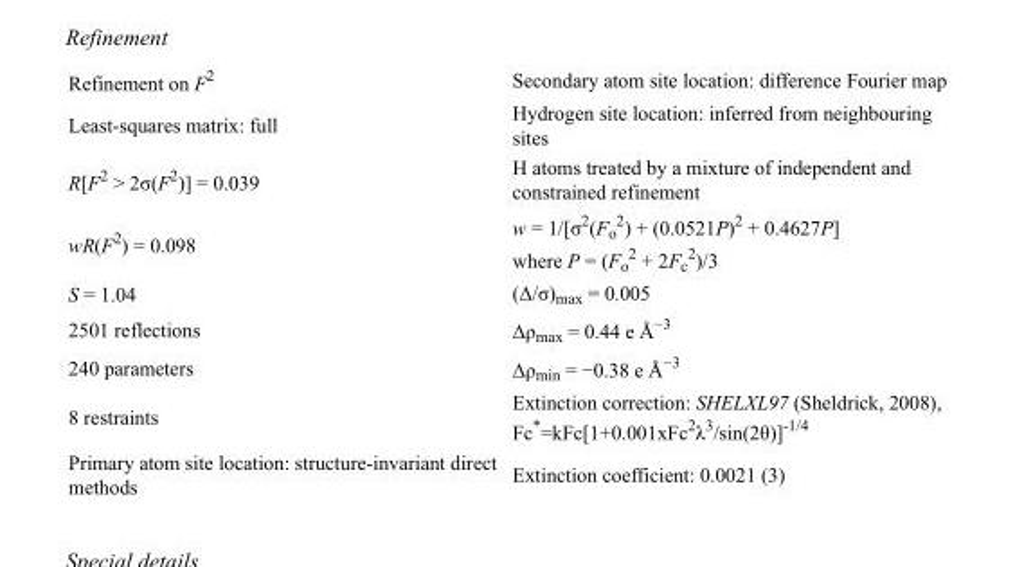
<table><tbody><tr><td>Refinement on F<sup>2</sup></td><td>Secondary atom site location: difference Fourier map</td></tr><tr><td>Least-squares matrix: full</td><td>Hydrogen site location: inferred from neighbouring sites</td></tr><tr><td>R[F<sup>2</sup> &gt; 2σ(F<sup>2</sup>)] = 0.039</td><td>H atoms treated by a mixture of independent and constrained refinement</td></tr><tr><td>wR(F<sup>2</sup>) = 0.098</td><td>w = 1/[σ<sup>2</sup>(F<sub>o</sub> <sup>2</sup>) + (0.0521P)<sup>2</sup> + 0.4627P] where P = (F<sub>o</sub> <sup>2</sup> + 2F<sub>c</sub> <sup>2</sup>)/3</td></tr><tr><td>S = 1.04</td><td>(Δ/σ)<sub>max</sub> = 0.005</td></tr><tr><td>2501 reflections</td><td>Δρ<sub>max</sub> = 0.44 e Å<sup>−3</sup></td></tr><tr><td>240 parameters</td><td>Δρ<sub>min</sub> = −0.38 e Å<sup>−3</sup></td></tr><tr><td>8 restraints</td><td>Extinction correction: SHELXL97 (Sheldrick, 2008), Fc*=kFc[1+0.001xFc<sup>2</sup>λ<sup>3</sup>/sin(2θ)]<sup>-1/4</sup></td></tr><tr><td>Primary atom site location: structure-invariant direct methods</td><td>Extinction coefficient: 0.0021 (3)</td></tr></tbody></table>